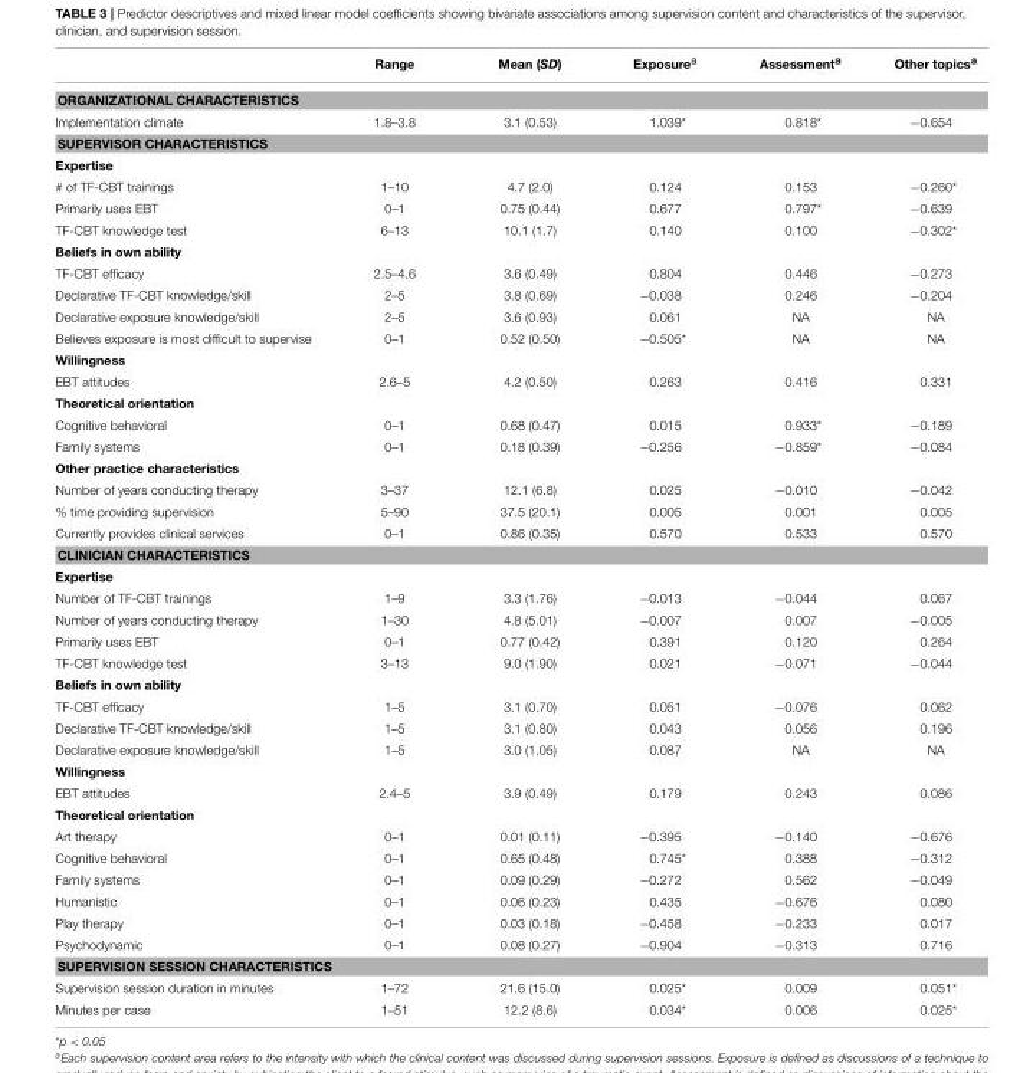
<table><thead><tr><td></td><td>Range</td><td>Mean (SD)</td><td>Exposure<sup>a</sup></td><td>Assessment<sup>a</sup></td><td>Other topics<sup>a</sup></td></tr></thead><tbody><tr><td colspan="6">ORGANIZATIONAL CHARACTERISTICS</td></tr><tr><td>Implementation climate</td><td>1.8–3.8</td><td>3.1 (0.53)</td><td>1.039*</td><td>0.818*</td><td>−0.654</td></tr><tr><td colspan="6">SUPERVISOR CHARACTERISTICS</td></tr><tr><td colspan="6">Expertise</td></tr><tr><td># of TF-CBT trainings</td><td>1–10</td><td>4.7 (2.0)</td><td>0.124</td><td>0.153</td><td>−0.260*</td></tr><tr><td>Primarily uses EBT</td><td>0–1</td><td>0.75 (0.44)</td><td>0.677</td><td>0.797*</td><td>−0.639</td></tr><tr><td>TF-CBT knowledge test</td><td>6–13</td><td>10.1 (1.7)</td><td>0.140</td><td>0.100</td><td>−0.302*</td></tr><tr><td colspan="6">Beliefs in own ability</td></tr><tr><td>TF-CBT efficacy</td><td>2.5–4.6</td><td>3.6 (0.49)</td><td>0.804</td><td>0.446</td><td>−0.273</td></tr><tr><td>Declarative TF-CBT knowledge/skill</td><td>2–5</td><td>3.8 (0.69)</td><td>−0.038</td><td>0.246</td><td>−0.204</td></tr><tr><td>Declarative exposure knowledge/skill</td><td>2–5</td><td>3.6 (0.93)</td><td>0.061</td><td>NA</td><td>NA</td></tr><tr><td>Believes exposure is most difficult to supervise</td><td>0–1</td><td>0.52 (0.50)</td><td>−0.505*</td><td>NA</td><td>NA</td></tr><tr><td colspan="6">Willingness</td></tr><tr><td>EBT attitudes</td><td>2.6–5</td><td>4.2 (0.50)</td><td>0.263</td><td>0.416</td><td>0.331</td></tr><tr><td colspan="6">Theoretical orientation</td></tr><tr><td>Cognitive behavioral</td><td>0–1</td><td>0.68 (0.47)</td><td>0.015</td><td>0.933*</td><td>−0.189</td></tr><tr><td>Family systems</td><td>0–1</td><td>0.18 (0.39)</td><td>−0.256</td><td>−0.859*</td><td>−0.084</td></tr><tr><td colspan="6">Other practice characteristics</td></tr><tr><td>Number of years conducting therapy</td><td>3–37</td><td>12.1 (6.8)</td><td>0.025</td><td>−0.010</td><td>−0.042</td></tr><tr><td>% time providing supervision</td><td>5–90</td><td>37.5 (20.1)</td><td>0.005</td><td>0.001</td><td>0.005</td></tr><tr><td>Currently provides clinical services</td><td>0–1</td><td>0.86 (0.35)</td><td>0.570</td><td>0.533</td><td>0.570</td></tr><tr><td colspan="6">CLINICIAN CHARACTERISTICS</td></tr><tr><td colspan="6">Expertise</td></tr><tr><td>Number of TF-CBT trainings</td><td>1–9</td><td>3.3 (1.76)</td><td>−0.013</td><td>−0.044</td><td>0.067</td></tr><tr><td>Number of years conducting therapy</td><td>1–30</td><td>4.8 (5.01)</td><td>−0.007</td><td>0.007</td><td>−0.005</td></tr><tr><td>Primarily uses EBT</td><td>0–1</td><td>0.77 (0.42)</td><td>0.391</td><td>0.120</td><td>0.264</td></tr><tr><td>TF-CBT knowledge test</td><td>3–13</td><td>9.0 (1.90)</td><td>0.021</td><td>−0.071</td><td>−0.044</td></tr><tr><td colspan="6">Beliefs in own ability</td></tr><tr><td>TF-CBT efficacy</td><td>1–5</td><td>3.1 (0.70)</td><td>0.051</td><td>−0.076</td><td>0.062</td></tr><tr><td>Declarative TF-CBT knowledge/skill</td><td>1–5</td><td>3.1 (0.80)</td><td>0.043</td><td>0.056</td><td>0.196</td></tr><tr><td>Declarative exposure knowledge/skill</td><td>1–5</td><td>3.0 (1.05)</td><td>0.087</td><td>NA</td><td>NA</td></tr><tr><td colspan="6">Willingness</td></tr><tr><td>EBT attitudes</td><td>2.4–5</td><td>3.9 (0.49)</td><td>0.179</td><td>0.243</td><td>0.086</td></tr><tr><td colspan="6">Theoretical orientation</td></tr><tr><td>Art therapy</td><td>0–1</td><td>0.01 (0.11)</td><td>−0.395</td><td>−0.140</td><td>−0.676</td></tr><tr><td>Cognitive behavioral</td><td>0–1</td><td>0.65 (0.48)</td><td>0.745*</td><td>0.388</td><td>−0.312</td></tr><tr><td>Family systems</td><td>0–1</td><td>0.09 (0.29)</td><td>−0.272</td><td>0.562</td><td>−0.049</td></tr><tr><td>Humanistic</td><td>0–1</td><td>0.06 (0.23)</td><td>0.435</td><td>−0.676</td><td>0.080</td></tr><tr><td>Play therapy</td><td>0–1</td><td>0.03 (0.18)</td><td>−0.458</td><td>−0.233</td><td>0.017</td></tr><tr><td>Psychodynamic</td><td>0–1</td><td>0.08 (0.27)</td><td>−0.904</td><td>−0.313</td><td>0.716</td></tr><tr><td colspan="6">SUPERVISION SESSION CHARACTERISTICS</td></tr><tr><td>Supervision session duration in minutes</td><td>1–72</td><td>21.6 (15.0)</td><td>0.025*</td><td>0.009</td><td>0.051*</td></tr><tr><td>Minutes per case</td><td>1–51</td><td>12.2 (8.6)</td><td>0.034*</td><td>0.006</td><td>0.025*</td></tr></tbody></table>